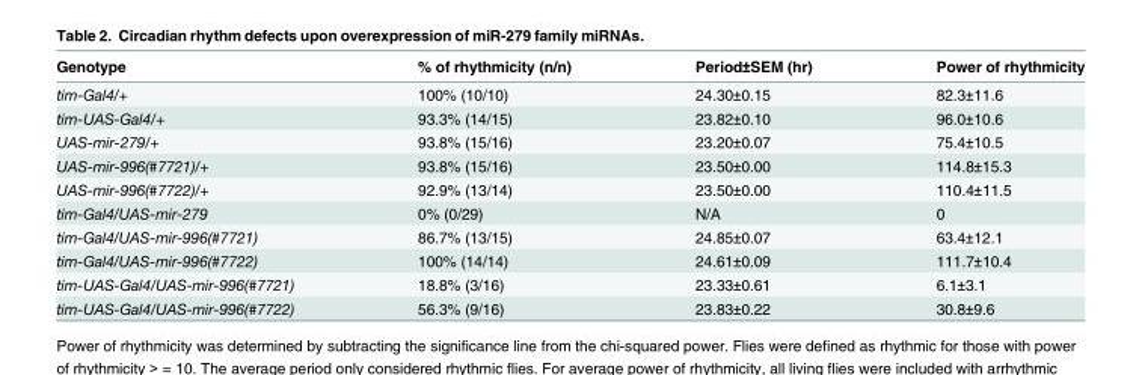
<table><thead><tr><td>Genotype</td><td>% of rhythmicity (n/n)</td><td>Period±SEM (hr)</td><td>Power of rhythmicity</td></tr></thead><tbody><tr><td>tim-Gal4/+</td><td>100% (10/10)</td><td>24.30±0.15</td><td>82.3±11.6</td></tr><tr><td>tim-UAS-Gal4/+</td><td>93.3% (14/15)</td><td>23.82±0.10</td><td>96.0±10.6</td></tr><tr><td>UAS-mir-279/+</td><td>93.8% (15/16)</td><td>23.20±0.07</td><td>75.4±10.5</td></tr><tr><td>UAS-mir-996(#7721)/+</td><td>93.8% (15/16)</td><td>23.50±0.00</td><td>114.8±15.3</td></tr><tr><td>UAS-mir-996(#7722)/+</td><td>92.9% (13/14)</td><td>23.50±0.00</td><td>110.4±11.5</td></tr><tr><td>tim-Gal4/UAS-mir-279</td><td>0% (0/29)</td><td>N/A</td><td>0</td></tr><tr><td>tim-Gal4/UAS-mir-996(#7721)</td><td>86.7% (13/15)</td><td>24.85±0.07</td><td>63.4±12.1</td></tr><tr><td>tim-Gal4/UAS-mir-996(#7722)</td><td>100% (14/14)</td><td>24.61±0.09</td><td>111.7±10.4</td></tr><tr><td>tim-UAS-Gal4/UAS-mir-996(#7721)</td><td>18.8% (3/16)</td><td>23.33±0.61</td><td>6.1±3.1</td></tr><tr><td>tim-UAS-Gal4/UAS-mir-996(#7722)</td><td>56.3% (9/16)</td><td>23.83±0.22</td><td>30.8±9.6</td></tr></tbody></table>